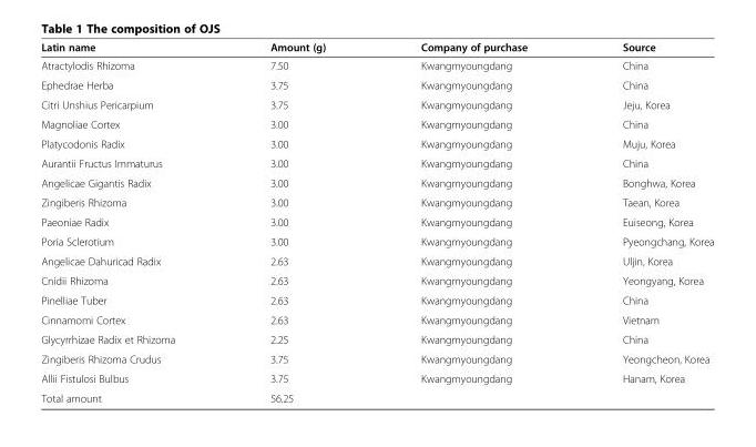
<table><thead><tr><td>Latin name</td><td>Amount (g)</td><td>Company of purchase</td><td>Source</td></tr></thead><tbody><tr><td>Atractylodis Rhizoma</td><td>7.50</td><td>Kwangmyoungdang</td><td>China</td></tr><tr><td>Ephedrae Herba</td><td>3.75</td><td>Kwangmyoungdang</td><td>China</td></tr><tr><td>Citri Unshius Pericarpium</td><td>3.75</td><td>Kwangmyoungdang</td><td>Jeju, Korea</td></tr><tr><td>Magnoliae Cortex</td><td>3.00</td><td>Kwangmyoungdang</td><td>China</td></tr><tr><td>Platycodonis Radix</td><td>3.00</td><td>Kwangmyoungdang</td><td>Muju, Korea</td></tr><tr><td>Aurantii Fructus Immaturus</td><td>3.00</td><td>Kwangmyoungdang</td><td>China</td></tr><tr><td>Angelicae Gigantis Radix</td><td>3.00</td><td>Kwangmyoungdang</td><td>Bonghwa, Korea</td></tr><tr><td>Zingiberis Rhizoma</td><td>3.00</td><td>Kwangmyoungdang</td><td>Taean, Korea</td></tr><tr><td>Paeoniae Radix</td><td>3.00</td><td>Kwangmyoungdang</td><td>Euiseong, Korea</td></tr><tr><td>Poria Sclerotium</td><td>3.00</td><td>Kwangmyoungdang</td><td>Pyeongchang, Korea</td></tr><tr><td>Angelicae Dahuricad Radix</td><td>2.63</td><td>Kwangmyoungdang</td><td>Uljin, Korea</td></tr><tr><td>Cnidii Rhizoma</td><td>2.63</td><td>Kwangmyoungdang</td><td>Yeongyang, Korea</td></tr><tr><td>Pinelliae Tuber</td><td>2.63</td><td>Kwangmyoungdang</td><td>China</td></tr><tr><td>Cinnamomi Cortex</td><td>2.63</td><td>Kwangmyoungdang</td><td>Vietnam</td></tr><tr><td>Glycyrrhizae Radix et Rhizoma</td><td>2.25</td><td>Kwangmyoungdang</td><td>China</td></tr><tr><td>Zingiberis Rhizoma Crudus</td><td>3.75</td><td>Kwangmyoungdang</td><td>Yeongcheon, Korea</td></tr><tr><td>Allii Fistulosi Bulbus</td><td>3.75</td><td>Kwangmyoungdang</td><td>Hanam, Korea</td></tr><tr><td>Total amount</td><td>56.25</td><td></td><td></td></tr></tbody></table>